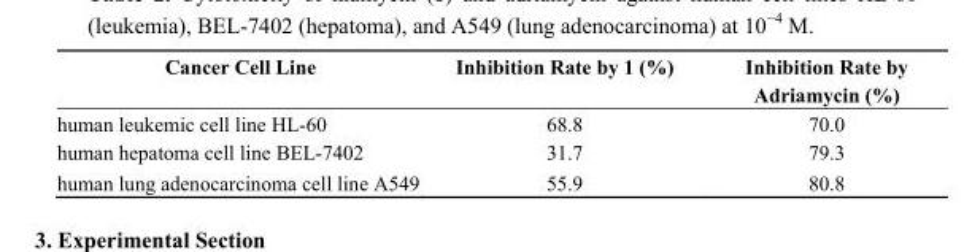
<table><thead><tr><td>Cancer Cell Line</td><td>Inhibition Rate by 1 (%)</td><td>Inhibition Rate by Adriamycin (%)</td></tr></thead><tbody><tr><td>human leukemic cell line HL-60</td><td>68.8</td><td>70.0</td></tr><tr><td>human hepatoma cell line BEL-7402</td><td>31.7</td><td>79.3</td></tr><tr><td>human lung adenocarcinoma cell line A549</td><td>55.9</td><td>80.8</td></tr></tbody></table>